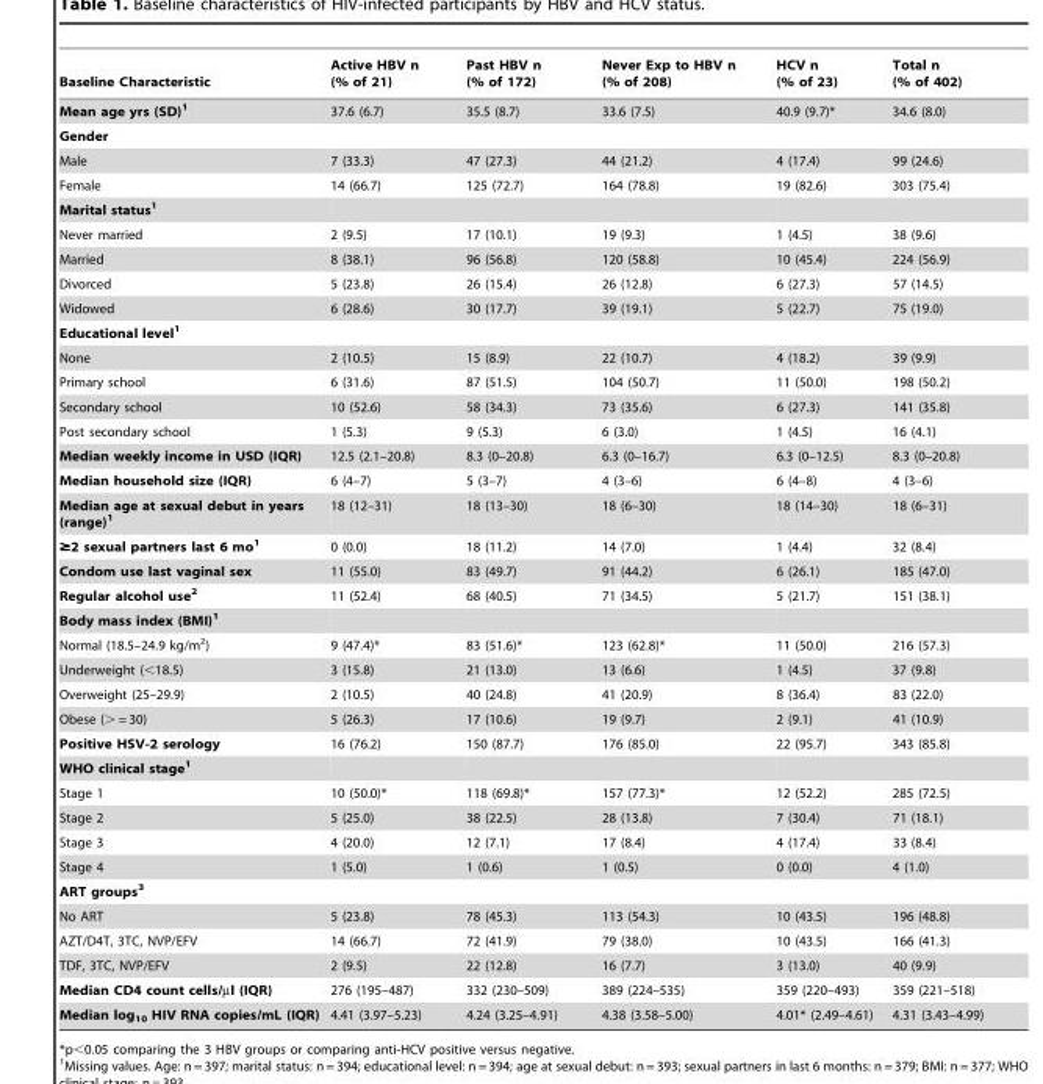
<table><thead><tr><td>Baseline Characteristic</td><td>Active HBV n (% of 21)</td><td>Past HBV n (% of 172)</td><td>Never Exp to HBV n (% of 208)</td><td>HCV n (% of 23)</td><td>Total n (% of 402)</td></tr></thead><tbody><tr><td>Mean age yrs (SD)1</td><td>37.6 (6.7)</td><td>35.5 (8.7)</td><td>33.6 (7.5)</td><td>40.9 (9.7)*</td><td>34.6 (8.0)</td></tr><tr><td colspan="6">Gender</td></tr><tr><td>Male</td><td>7 (33.3)</td><td>47 (27.3)</td><td>44 (21.2)</td><td>4 (17.4)</td><td>99 (24.6)</td></tr><tr><td>Female</td><td>14 (66.7)</td><td>125 (72.7)</td><td>164 (78.8)</td><td>19 (82.6)</td><td>303 (75.4)</td></tr><tr><td colspan="6">Marital status1</td></tr><tr><td>Never married</td><td>2 (9.5)</td><td>17 (10.1)</td><td>19 (9.3)</td><td>1 (4.5)</td><td>38 (9.6)</td></tr><tr><td>Married</td><td>8 (38.1)</td><td>96 (56.8)</td><td>120 (58.8)</td><td>10 (45.4)</td><td>224 (56.9)</td></tr><tr><td>Divorced</td><td>5 (23.8)</td><td>26 (15.4)</td><td>26 (12.8)</td><td>6 (27.3)</td><td>57 (14.5)</td></tr><tr><td>Widowed</td><td>6 (28.6)</td><td>30 (17.7)</td><td>39 (19.1)</td><td>5 (22.7)</td><td>75 (19.0)</td></tr><tr><td colspan="6">Educational level1</td></tr><tr><td>None</td><td>2 (10.5)</td><td>15 (8.9)</td><td>22 (10.7)</td><td>4 (18.2)</td><td>39 (9.9)</td></tr><tr><td>Primary school</td><td>6 (31.6)</td><td>87 (51.5)</td><td>104 (50.7)</td><td>11 (50.0)</td><td>198 (50.2)</td></tr><tr><td>Secondary school</td><td>10 (52.6)</td><td>58 (34.3)</td><td>73 (35.6)</td><td>6 (27.3)</td><td>141 (35.8)</td></tr><tr><td>Post secondary school</td><td>1 (5.3)</td><td>9 (5.3)</td><td>6 (3.0)</td><td>1 (4.5)</td><td>16 (4.1)</td></tr><tr><td>Median weekly income in USD (IQR)</td><td>12.5 (2.1–20.8)</td><td>8.3 (0–20.8)</td><td>6.3 (0–16.7)</td><td>6.3 (0–12.5)</td><td>8.3 (0–20.8)</td></tr><tr><td>Median household size (IQR)</td><td>6 (4–7)</td><td>5 (3–7)</td><td>4 (3–6)</td><td>6 (4–8)</td><td>4 (3–6)</td></tr><tr><td>Median age at sexual debut in years (range)1</td><td>18 (12–31)</td><td>18 (13–30)</td><td>18 (6–30)</td><td>18 (14–30)</td><td>18 (6–31)</td></tr><tr><td>≥2 sexual partners last 6 mo1</td><td>0 (0.0)</td><td>18 (11.2)</td><td>14 (7.0)</td><td>1 (4.4)</td><td>32 (8.4)</td></tr><tr><td>Condom use last vaginal sex</td><td>11 (55.0)</td><td>83 (49.7)</td><td>91 (44.2)</td><td>6 (26.1)</td><td>185 (47.0)</td></tr><tr><td>Regular alcohol use2</td><td>11 (52.4)</td><td>68 (40.5)</td><td>71 (34.5)</td><td>5 (21.7)</td><td>151 (38.1)</td></tr><tr><td colspan="6">Body mass index (BMI)1</td></tr><tr><td>Normal (18.5–24.9 kg/m<sup>2</sup>)</td><td>9 (47.4)*</td><td>83 (51.6)*</td><td>123 (62.8)*</td><td>11 (50.0)</td><td>216 (57.3)</td></tr><tr><td>Underweight (&lt;18.5)</td><td>3 (15.8)</td><td>21 (13.0)</td><td>13 (6.6)</td><td>1 (4.5)</td><td>37 (9.8)</td></tr><tr><td>Overweight (25–29.9)</td><td>2 (10.5)</td><td>40 (24.8)</td><td>41 (20.9)</td><td>8 (36.4)</td><td>83 (22.0)</td></tr><tr><td>Obese (&gt; = 30)</td><td>5 (26.3)</td><td>17 (10.6)</td><td>19 (9.7)</td><td>2 (9.1)</td><td>41 (10.9)</td></tr><tr><td>Positive HSV-2 serology</td><td>16 (76.2)</td><td>150 (87.7)</td><td>176 (85.0)</td><td>22 (95.7)</td><td>343 (85.8)</td></tr><tr><td colspan="6">WHO clinical stage1</td></tr><tr><td>Stage 1</td><td>10 (50.0)*</td><td>118 (69.8)*</td><td>157 (77.3)*</td><td>12 (52.2)</td><td>285 (72.5)</td></tr><tr><td>Stage 2</td><td>5 (25.0)</td><td>38 (22.5)</td><td>28 (13.8)</td><td>7 (30.4)</td><td>71 (18.1)</td></tr><tr><td>Stage 3</td><td>4 (20.0)</td><td>12 (7.1)</td><td>17 (8.4)</td><td>4 (17.4)</td><td>33 (8.4)</td></tr><tr><td>Stage 4</td><td>1 (5.0)</td><td>1 (0.6)</td><td>1 (0.5)</td><td>0 (0.0)</td><td>4 (1.0)</td></tr><tr><td colspan="6">ART groups3</td></tr><tr><td>No ART</td><td>5 (23.8)</td><td>78 (45.3)</td><td>113 (54.3)</td><td>10 (43.5)</td><td>196 (48.8)</td></tr><tr><td>AZT/D4T, 3TC, NVP/EFV</td><td>14 (66.7)</td><td>72 (41.9)</td><td>79 (38.0)</td><td>10 (43.5)</td><td>166 (41.3)</td></tr><tr><td>TDF, 3TC, NVP/EFV</td><td>2 (9.5)</td><td>22 (12.8)</td><td>16 (7.7)</td><td>3 (13.0)</td><td>40 (9.9)</td></tr><tr><td>Median CD4 count cells/µl (IQR)</td><td>276 (195–487)</td><td>332 (230–509)</td><td>389 (224–535)</td><td>359 (220–493)</td><td>359 (221–518)</td></tr><tr><td>Median log<sub>10</sub> HIV RNA copies/mL (IQR)</td><td>4.41 (3.97–5.23)</td><td>4.24 (3.25–4.91)</td><td>4.38 (3.58–5.00)</td><td>4.01* (2.49–4.61)</td><td>4.31 (3.43–4.99)</td></tr></tbody></table>